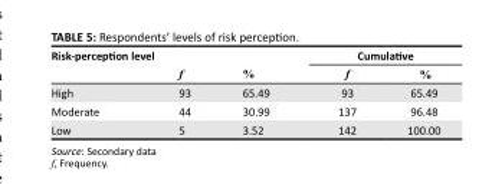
<table><thead><tr><td rowspan="2">Risk-perception level</td><td rowspan="2">f</td><td rowspan="2">%</td><td colspan="2">Cumulative</td></tr><tr><td>f</td><td>%</td></tr></thead><tbody><tr><td>High</td><td>93</td><td>65.49</td><td>93</td><td>65.49</td></tr><tr><td>Moderate</td><td>44</td><td>30.99</td><td>137</td><td>96.48</td></tr><tr><td>Low</td><td>5</td><td>3.52</td><td>142</td><td>100.00</td></tr></tbody></table>